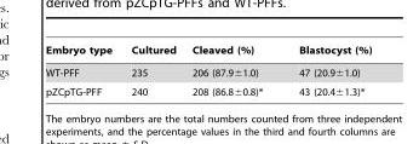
<table><thead><tr><td>Embryo type</td><td>Cultured</td><td>Cleaved (%)</td><td>Blastocyst (%)</td></tr></thead><tbody><tr><td>WT-PFF</td><td>235</td><td>206 (87.9±1.0)</td><td>47 (20.9±1.0)</td></tr><tr><td>pZCpTG-PFF</td><td>240</td><td>208 (86.8±0.8)*</td><td>43 (20.4±1.3)*</td></tr></tbody></table>